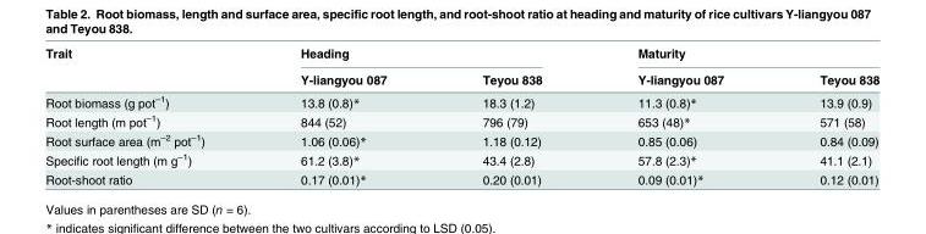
<table><thead><tr><td rowspan="2">Trait</td><td colspan="2">Heading</td><td colspan="2">Maturity</td></tr><tr><td>Y-liangyou 087</td><td>Teyou 838</td><td>Y-liangyou 087</td><td>Teyou 838</td></tr></thead><tbody><tr><td>Root biomass (g pot<sup>–1</sup>)</td><td>13.8 (0.8)*</td><td>18.3 (1.2)</td><td>11.3 (0.8)*</td><td>13.9 (0.9)</td></tr><tr><td>Root length (m pot<sup>–1</sup>)</td><td>844 (52)</td><td>796 (79)</td><td>653 (48)*</td><td>571 (58)</td></tr><tr><td>Root surface area (m<sup>–2</sup> pot<sup>–1</sup>)</td><td>1.06 (0.06)*</td><td>1.18 (0.12)</td><td>0.85 (0.06)</td><td>0.84 (0.09)</td></tr><tr><td>Specific root length (m g<sup>–1</sup>)</td><td>61.2 (3.8)*</td><td>43.4 (2.8)</td><td>57.8 (2.3)*</td><td>41.1 (2.1)</td></tr><tr><td>Root-shoot ratio</td><td>0.17 (0.01)*</td><td>0.20 (0.01)</td><td>0.09 (0.01)*</td><td>0.12 (0.01)</td></tr></tbody></table>